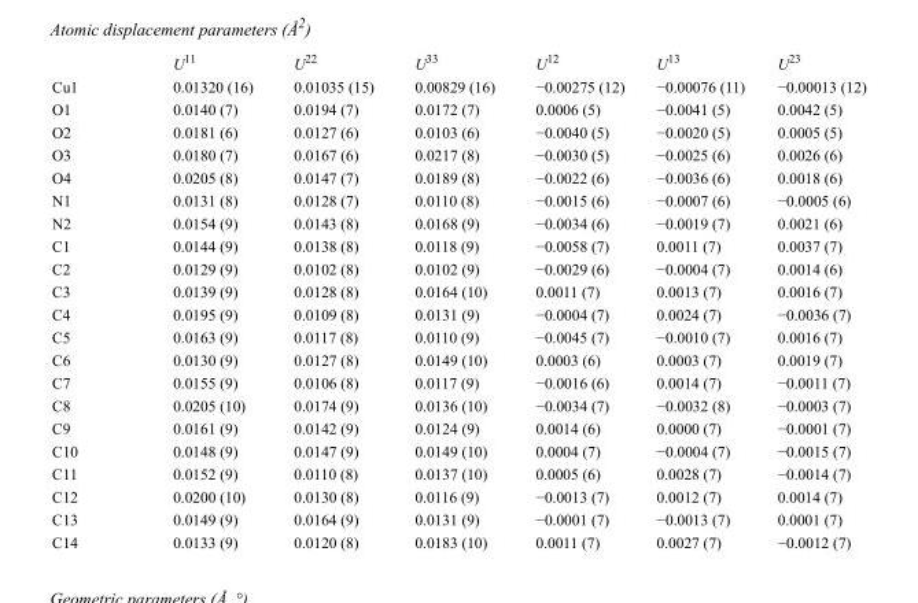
<table><thead><tr><td></td><td>U<sup>11</sup></td><td>U<sup>22</sup></td><td>U<sup>33</sup></td><td>U<sup>12</sup></td><td>U<sup>13</sup></td><td>U<sup>23</sup></td></tr></thead><tbody><tr><td>Cu1</td><td>0.01320 (16)</td><td>0.01035 (15)</td><td>0.00829 (16)</td><td>−0.00275 (12)</td><td>−0.00076 (11)</td><td>−0.00013 (12)</td></tr><tr><td>O1</td><td>0.0140 (7)</td><td>0.0194 (7)</td><td>0.0172 (7)</td><td>0.0006 (5)</td><td>−0.0041 (5)</td><td>0.0042 (5)</td></tr><tr><td>O2</td><td>0.0181 (6)</td><td>0.0127 (6)</td><td>0.0103 (6)</td><td>−0.0040 (5)</td><td>−0.0020 (5)</td><td>0.0005 (5)</td></tr><tr><td>O3</td><td>0.0180 (7)</td><td>0.0167 (6)</td><td>0.0217 (8)</td><td>−0.0030 (5)</td><td>−0.0025 (6)</td><td>0.0026 (6)</td></tr><tr><td>O4</td><td>0.0205 (8)</td><td>0.0147 (7)</td><td>0.0189 (8)</td><td>−0.0022 (6)</td><td>−0.0036 (6)</td><td>0.0018 (6)</td></tr><tr><td>N1</td><td>0.0131 (8)</td><td>0.0128 (7)</td><td>0.0110 (8)</td><td>−0.0015 (6)</td><td>−0.0007 (6)</td><td>−0.0005 (6)</td></tr><tr><td>N2</td><td>0.0154 (9)</td><td>0.0143 (8)</td><td>0.0168 (9)</td><td>−0.0034 (6)</td><td>−0.0019 (7)</td><td>0.0021 (6)</td></tr><tr><td>C1</td><td>0.0144 (9)</td><td>0.0138 (8)</td><td>0.0118 (9)</td><td>−0.0058 (7)</td><td>0.0011 (7)</td><td>0.0037 (7)</td></tr><tr><td>C2</td><td>0.0129 (9)</td><td>0.0102 (8)</td><td>0.0102 (9)</td><td>−0.0029 (6)</td><td>−0.0004 (7)</td><td>0.0014 (6)</td></tr><tr><td>C3</td><td>0.0139 (9)</td><td>0.0128 (8)</td><td>0.0164 (10)</td><td>0.0011 (7)</td><td>0.0013 (7)</td><td>0.0016 (7)</td></tr><tr><td>C4</td><td>0.0195 (9)</td><td>0.0109 (8)</td><td>0.0131 (9)</td><td>−0.0004 (7)</td><td>0.0024 (7)</td><td>−0.0036 (7)</td></tr><tr><td>C5</td><td>0.0163 (9)</td><td>0.0117 (8)</td><td>0.0110 (9)</td><td>−0.0045 (7)</td><td>−0.0010 (7)</td><td>0.0016 (7)</td></tr><tr><td>C6</td><td>0.0130 (9)</td><td>0.0127 (8)</td><td>0.0149 (10)</td><td>0.0003 (6)</td><td>0.0003 (7)</td><td>0.0019 (7)</td></tr><tr><td>C7</td><td>0.0155 (9)</td><td>0.0106 (8)</td><td>0.0117 (9)</td><td>−0.0016 (6)</td><td>0.0014 (7)</td><td>−0.0011 (7)</td></tr><tr><td>C8</td><td>0.0205 (10)</td><td>0.0174 (9)</td><td>0.0136 (10)</td><td>−0.0034 (7)</td><td>−0.0032 (8)</td><td>−0.0003 (7)</td></tr><tr><td>C9</td><td>0.0161 (9)</td><td>0.0142 (9)</td><td>0.0124 (9)</td><td>0.0014 (6)</td><td>0.0000 (7)</td><td>−0.0001 (7)</td></tr><tr><td>C10</td><td>0.0148 (9)</td><td>0.0147 (9)</td><td>0.0149 (10)</td><td>0.0004 (7)</td><td>−0.0004 (7)</td><td>−0.0015 (7)</td></tr><tr><td>C11</td><td>0.0152 (9)</td><td>0.0110 (8)</td><td>0.0137 (10)</td><td>0.0005 (6)</td><td>0.0028 (7)</td><td>−0.0014 (7)</td></tr><tr><td>C12</td><td>0.0200 (10)</td><td>0.0130 (8)</td><td>0.0116 (9)</td><td>−0.0013 (7)</td><td>0.0012 (7)</td><td>0.0014 (7)</td></tr><tr><td>C13</td><td>0.0149 (9)</td><td>0.0164 (9)</td><td>0.0131 (9)</td><td>−0.0001 (7)</td><td>−0.0013 (7)</td><td>0.0001 (7)</td></tr><tr><td>C14</td><td>0.0133 (9)</td><td>0.0120 (8)</td><td>0.0183 (10)</td><td>0.0011 (7)</td><td>0.0027 (7)</td><td>−0.0012 (7)</td></tr></tbody></table>